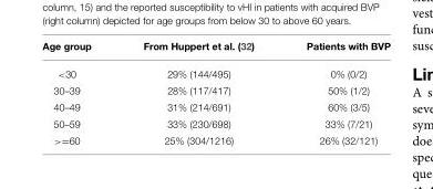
<table><thead><tr><td>Age group</td><td>From Huppert et al. (32)</td><td>Patients with BVP</td></tr></thead><tbody><tr><td>&lt;30</td><td>29% (144/495)</td><td>0% (0/2)</td></tr><tr><td>30–39</td><td>28% (117/417)</td><td>50% (1/2)</td></tr><tr><td>40–49</td><td>31% (214/691)</td><td>60% (3/5)</td></tr><tr><td>50–59</td><td>33% (230/698)</td><td>33% (7/21)</td></tr><tr><td>&gt;=60</td><td>25% (304/1216)</td><td>26% (32/121)</td></tr></tbody></table>